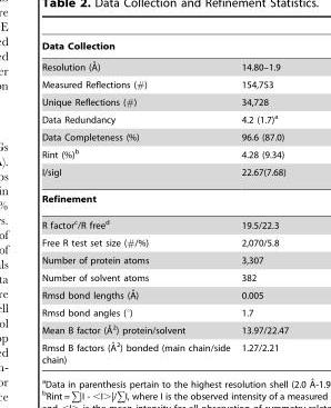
<table><thead><tr><td colspan="2">Data Collection</td></tr><tr><td>Resolution (A˚)</td><td>14.80–1.9</td></tr></thead><tbody><tr><td>Measured Reflections (#)</td><td>154,753</td></tr><tr><td>Unique Reflections (#)</td><td>34,728</td></tr><tr><td>Data Redundancy</td><td>4.2 (1.7)<sup>a</sup></td></tr><tr><td>Data Completeness (%)</td><td>96.6 (87.0)</td></tr><tr><td>Rint (%)<sup>b</sup></td><td>4.28 (9.34)</td></tr><tr><td>I/sigI</td><td>22.67(7.68)</td></tr><tr><td colspan="2">Refinement</td></tr><tr><td>R factor<sup>c</sup>/R free<sup>d</sup></td><td>19.5/22.3</td></tr><tr><td>Free R test set size (#/%)</td><td>2,070/5.8</td></tr><tr><td>Number of protein atoms</td><td>3,307</td></tr><tr><td>Number of solvent atoms</td><td>382</td></tr><tr><td>Rmsd bond lengths (A˚)</td><td>0.005</td></tr><tr><td>Rmsd bond angles (°)</td><td>1.7</td></tr><tr><td>Mean B factor (A˚2) protein/solvent</td><td>13.97/22.47</td></tr><tr><td>Rmsd B factors (A˚ 2) bonded (main chain/side chain)</td><td>1.27/2.21</td></tr></tbody></table>